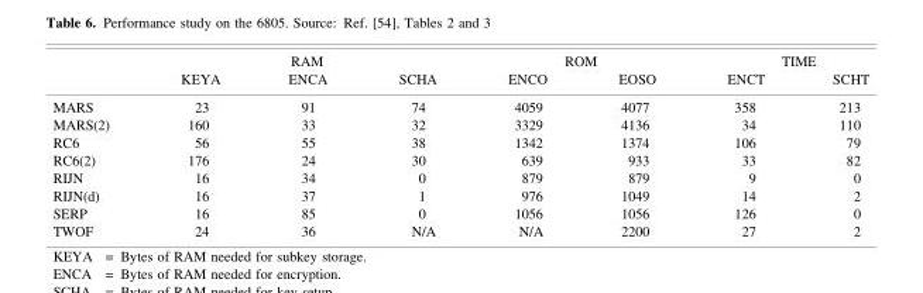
<table><thead><tr><td rowspan="2"></td><td colspan="3">RAM</td><td colspan="2">ROM</td><td colspan="2">TIME</td></tr><tr><td>KEYA</td><td>ENCA</td><td>SCHA</td><td>ENCO</td><td>EOSO</td><td>ENCT</td><td>SCHT</td></tr></thead><tbody><tr><td>MARS</td><td>23</td><td>91</td><td>74</td><td>4059</td><td>4077</td><td>358</td><td>213</td></tr><tr><td>MARS(2)</td><td>160</td><td>33</td><td>32</td><td>3329</td><td>4136</td><td>34</td><td>110</td></tr><tr><td>RC6</td><td>56</td><td>55</td><td>38</td><td>1342</td><td>1374</td><td>106</td><td>79</td></tr><tr><td>RC6(2)</td><td>176</td><td>24</td><td>30</td><td>639</td><td>933</td><td>33</td><td>82</td></tr><tr><td>RIJN</td><td>16</td><td>34</td><td>0</td><td>879</td><td>879</td><td>9</td><td>0</td></tr><tr><td>RIJN(d)</td><td>16</td><td>37</td><td>1</td><td>976</td><td>1049</td><td>14</td><td>2</td></tr><tr><td>SERP</td><td>16</td><td>85</td><td>0</td><td>1056</td><td>1056</td><td>126</td><td>0</td></tr><tr><td>TWOF</td><td>24</td><td>36</td><td>N/A</td><td>N/A</td><td>2200</td><td>27</td><td>2</td></tr></tbody></table>